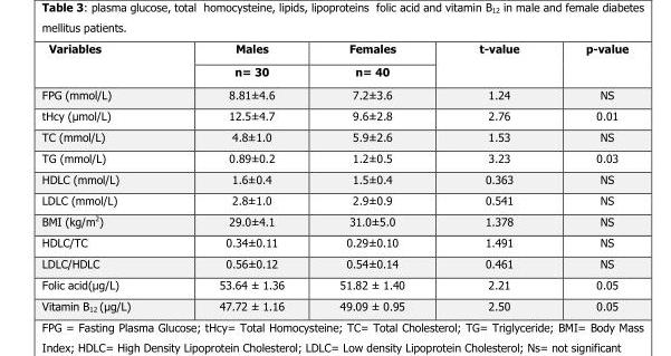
<table><thead><tr><td rowspan="2">Variables</td><td rowspan="2">Males n= 30</td><td rowspan="2">Females n= 40</td><td rowspan="2">t-value</td><td rowspan="2">p-value</td></tr><tr></tr></thead><tbody><tr><td>FPG (mmol/L)</td><td>8.81±4.6</td><td>7.2±3.6</td><td>1.24</td><td>NS</td></tr><tr><td>tHcy (µmol/L)</td><td>12.5±4.7</td><td>9.6±2.8</td><td>2.76</td><td>0.01</td></tr><tr><td>TC (mmol/L)</td><td>4.8±1.0</td><td>5.9±2.6</td><td>1.53</td><td>NS</td></tr><tr><td>TG (mmol/L)</td><td>0.89±0.2</td><td>1.2±0.5</td><td>3.23</td><td>0.03</td></tr><tr><td>HDLC (mmol/L)</td><td>1.6±0.4</td><td>1.5±0.4</td><td>0.363</td><td>NS</td></tr><tr><td>LDLC (mmol/L)</td><td>2.8±1.0</td><td>2.9±0.9</td><td>0.541</td><td>NS</td></tr><tr><td>BMI (kg/m<sup>2</sup>)</td><td>29.0±4.1</td><td>31.0±5.0</td><td>1.378</td><td>NS</td></tr><tr><td>HDLC/TC</td><td>0.34±0.11</td><td>0.29±0.10</td><td>1.491</td><td>NS</td></tr><tr><td>LDLC/HDLC</td><td>0.56±0.12</td><td>0.54±0.14</td><td>0.461</td><td>NS</td></tr><tr><td>Folic acid(µg/L)</td><td>53.64 ± 1.36</td><td>51.82 ± 1.40</td><td>2.21</td><td>0.05</td></tr><tr><td>Vitamin B<sub>12</sub> (µg/L)</td><td>47.72 ± 1.16</td><td>49.09 ± 0.95</td><td>2.50</td><td>0.05</td></tr></tbody></table>